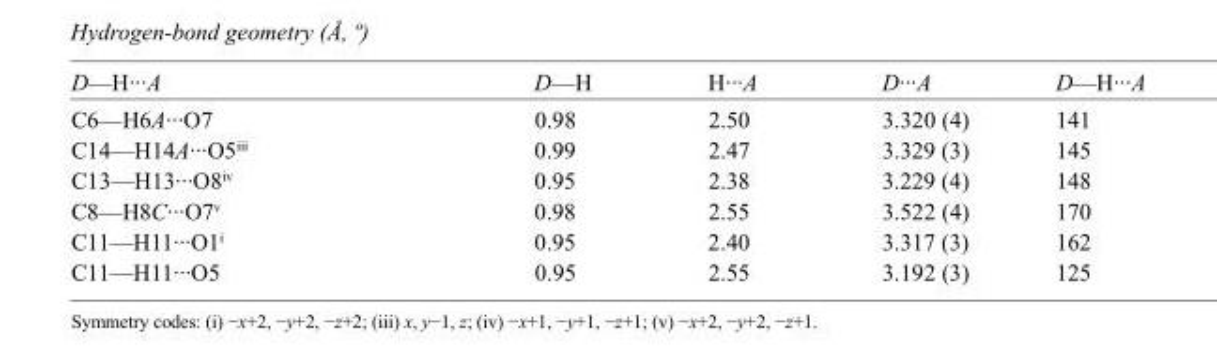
<table><tbody><tr><td>D—H···A</td><td>D—H</td><td>H···A</td><td>D···A</td><td>D—H···A</td></tr><tr><td>C6—H6A···O7</td><td>0.98</td><td>2.50</td><td>3.320 (4)</td><td>141</td></tr><tr><td>C14—H14A···O5<sup>iii</sup></td><td>0.99</td><td>2.47</td><td>3.329 (3)</td><td>145</td></tr><tr><td>C13—H13···O8<sup>iv</sup></td><td>0.95</td><td>2.38</td><td>3.229 (4)</td><td>148</td></tr><tr><td>C8—H8C···O7<sup>v</sup></td><td>0.98</td><td>2.55</td><td>3.522 (4)</td><td>170</td></tr><tr><td>C11—H11···O1<sup>i</sup></td><td>0.95</td><td>2.40</td><td>3.317 (3)</td><td>162</td></tr><tr><td>C11—H11···O5</td><td>0.95</td><td>2.55</td><td>3.192 (3)</td><td>125</td></tr></tbody></table>